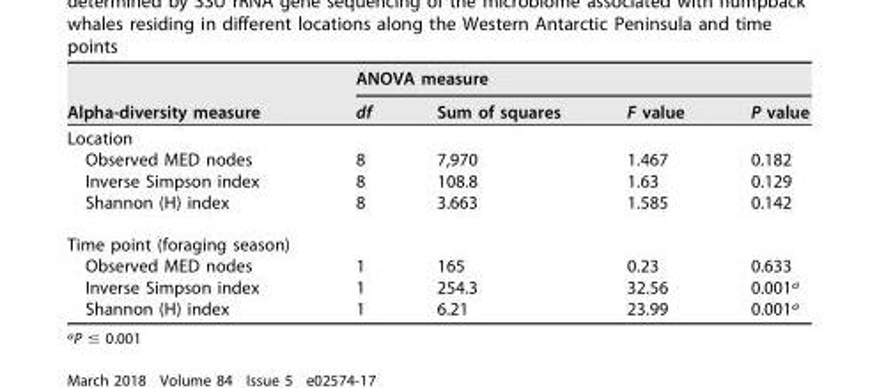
<table><thead><tr><td rowspan="2">Alpha-diversity measure</td><td colspan="4">ANOVA measure</td></tr><tr><td>df</td><td>Sum of squares</td><td>F value</td><td>P value</td></tr></thead><tbody><tr><td colspan="5">Location</td></tr><tr><td>Observed MED nodes</td><td>8</td><td>7,970</td><td>1.467</td><td>0.182</td></tr><tr><td>Inverse Simpson index</td><td>8</td><td>108.8</td><td>1.63</td><td>0.129</td></tr><tr><td>Shannon (H) index</td><td>8</td><td>3.663</td><td>1.585</td><td>0.142</td></tr><tr><td colspan="5">Time point (foraging season)</td></tr><tr><td>Observed MED nodes</td><td>1</td><td>165</td><td>0.23</td><td>0.633</td></tr><tr><td>Inverse Simpson index</td><td>1</td><td>254.3</td><td>32.56</td><td>0.001<sup>a</sup></td></tr><tr><td>Shannon (H) index</td><td>1</td><td>6.21</td><td>23.99</td><td>0.001<sup>a</sup></td></tr></tbody></table>